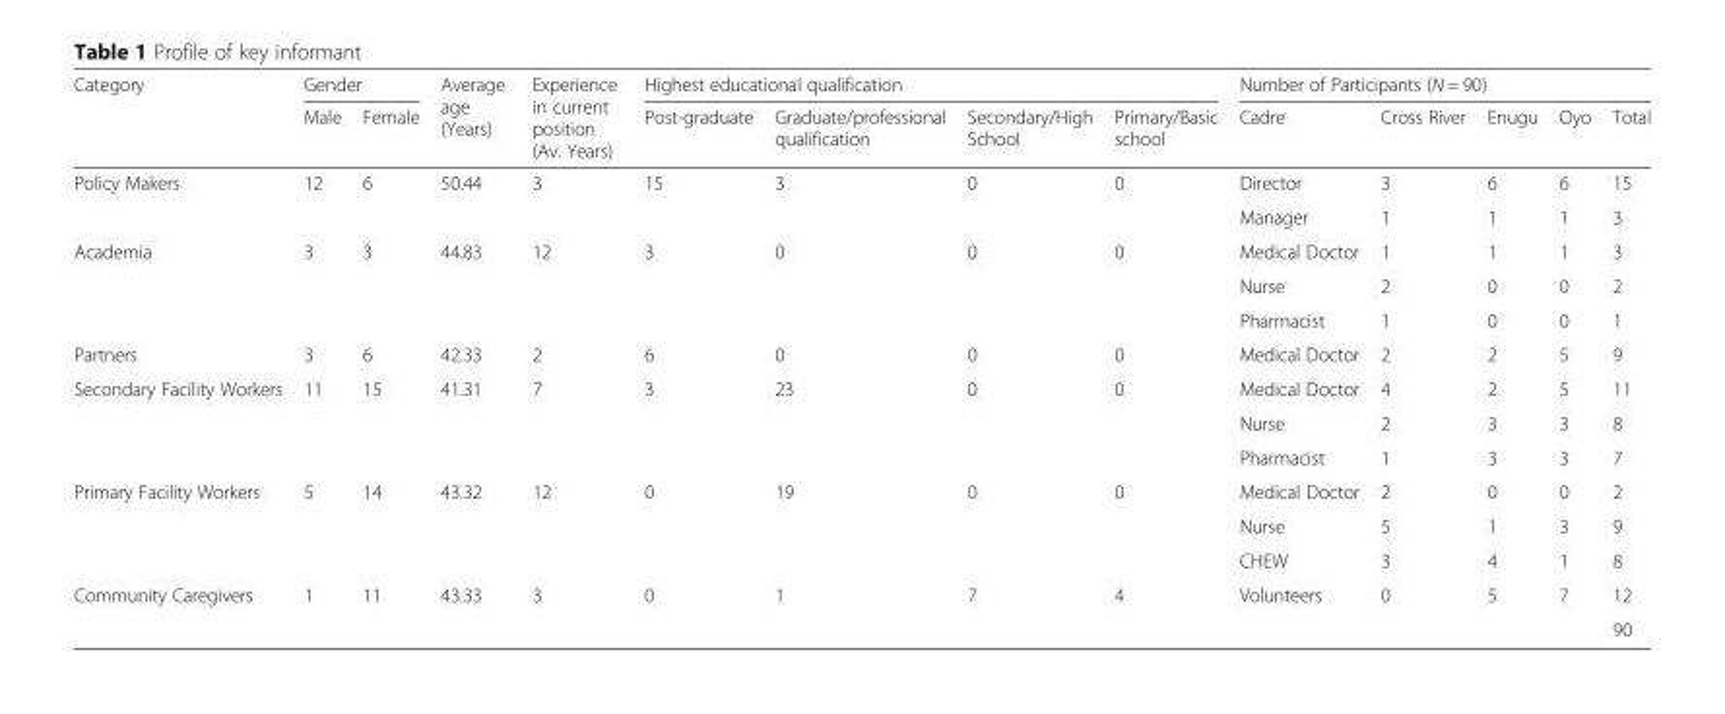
<table><thead><tr><td rowspan="2">Category</td><td colspan="2">Gender</td><td rowspan="2">Average age (Years)</td><td rowspan="2">Experience in current position (Av. Years)</td><td colspan="4">Highest educational qualification</td><td colspan="5">Number of Participants (N = 90)</td></tr><tr><td>Male</td><td>Female</td><td>Post-graduate</td><td>Graduate/professional qualification</td><td>Secondary/High School</td><td>Primary/Basic school</td><td>Cadre</td><td>Cross River</td><td>Enugu</td><td>Oyo</td><td>Total</td></tr></thead><tbody><tr><td rowspan="2">Policy Makers</td><td rowspan="2">12</td><td rowspan="2">6</td><td rowspan="2">50.44</td><td rowspan="2">3</td><td rowspan="2">15</td><td rowspan="2">3</td><td rowspan="2">0</td><td rowspan="2">0</td><td>Director</td><td>3</td><td>6</td><td>6</td><td>15</td></tr><tr><td>Manager</td><td>1</td><td>1</td><td>1</td><td>3</td></tr><tr><td rowspan="3">Academia</td><td rowspan="3">3</td><td rowspan="3">3</td><td rowspan="3">44.83</td><td rowspan="3">12</td><td rowspan="3">3</td><td rowspan="3">0</td><td rowspan="3">0</td><td rowspan="3">0</td><td>Medical Doctor</td><td>1</td><td>1</td><td>1</td><td>3</td></tr><tr><td>Nurse</td><td>2</td><td>0</td><td>0</td><td>2</td></tr><tr><td>Pharmacist</td><td>1</td><td>0</td><td>0</td><td>1</td></tr><tr><td>Partners</td><td>3</td><td>6</td><td>42.33</td><td>2</td><td>6</td><td>0</td><td>0</td><td>0</td><td>Medical Doctor</td><td>2</td><td>2</td><td>5</td><td>9</td></tr><tr><td rowspan="3">Secondary Facility Workers</td><td rowspan="3">11</td><td rowspan="3">15</td><td rowspan="3">41.31</td><td rowspan="3">7</td><td rowspan="3">3</td><td rowspan="3">23</td><td rowspan="3">0</td><td rowspan="3">0</td><td>Medical Doctor</td><td>4</td><td>2</td><td>5</td><td>11</td></tr><tr><td>Nurse</td><td>2</td><td>3</td><td>3</td><td>8</td></tr><tr><td>Pharmacist</td><td>1</td><td>3</td><td>3</td><td>7</td></tr><tr><td rowspan="3">Primary Facility Workers</td><td rowspan="3">5</td><td rowspan="3">14</td><td rowspan="3">43.32</td><td rowspan="3">12</td><td rowspan="3">0</td><td rowspan="3">19</td><td rowspan="3">0</td><td rowspan="3">0</td><td>Medical Doctor</td><td>2</td><td>0</td><td>0</td><td>2</td></tr><tr><td>Nurse</td><td>5</td><td>1</td><td>3</td><td>9</td></tr><tr><td>CHEW</td><td>3</td><td>4</td><td>1</td><td>8</td></tr><tr><td rowspan="2">Community Caregivers</td><td>1</td><td>11</td><td>43.33</td><td>3</td><td>0</td><td>1</td><td>7</td><td>4</td><td>Volunteers</td><td>0</td><td>5</td><td>7</td><td>12</td></tr><tr><td></td><td></td><td></td><td></td><td></td><td></td><td></td><td></td><td></td><td></td><td></td><td></td><td>90</td></tr></tbody></table>